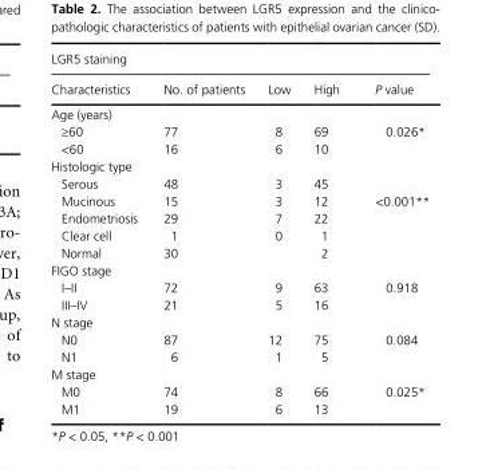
<table><thead><tr><td colspan="5">LGR5 staining</td></tr><tr><td>Characteristics</td><td>No. of patients</td><td>Low</td><td>High</td><td>P value</td></tr></thead><tbody><tr><td colspan="5">Age (years)</td></tr><tr><td>≥60</td><td>77</td><td>8</td><td>69</td><td>0.026*</td></tr><tr><td>&lt;60</td><td>16</td><td>6</td><td>10</td><td></td></tr><tr><td colspan="5">Histologic type</td></tr><tr><td>Serous</td><td>48</td><td>3</td><td>45</td><td></td></tr><tr><td>Mucinous</td><td>15</td><td>3</td><td>12</td><td>&lt;0.001**</td></tr><tr><td>Endometriosis</td><td>29</td><td>7</td><td>22</td><td></td></tr><tr><td>Clear cell</td><td>1</td><td>0</td><td>1</td><td></td></tr><tr><td>Normal</td><td>30</td><td></td><td>2</td><td></td></tr><tr><td colspan="5">FIGO stage</td></tr><tr><td>I–II</td><td>72</td><td>9</td><td>63</td><td>0.918</td></tr><tr><td>III–IV</td><td>21</td><td>5</td><td>16</td><td></td></tr><tr><td colspan="5">N stage</td></tr><tr><td>N0</td><td>87</td><td>12</td><td>75</td><td>0.084</td></tr><tr><td>N1</td><td>6</td><td>1</td><td>5</td><td></td></tr><tr><td colspan="5">M stage</td></tr><tr><td>M0</td><td>74</td><td>8</td><td>66</td><td>0.025*</td></tr><tr><td>M1</td><td>19</td><td>6</td><td>13</td><td></td></tr></tbody></table>